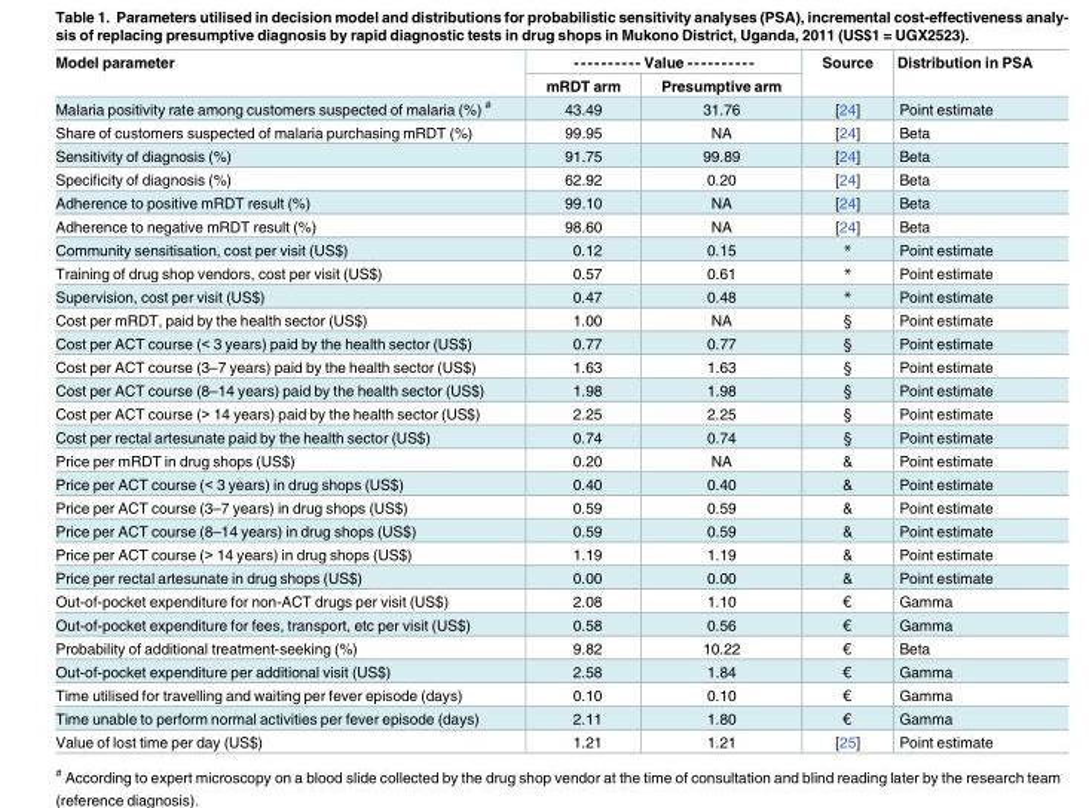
<table><thead><tr><td rowspan="2">Model parameter</td><td colspan="2">---------- Value ----------</td><td rowspan="2">Source</td><td rowspan="2">Distribution in PSA</td></tr><tr><td>mRDT arm</td><td>Presumptive arm</td></tr></thead><tbody><tr><td>Malaria positivity rate among customers suspected of malaria (%) <sup>#</sup></td><td>43.49</td><td>31.76</td><td>[24]</td><td>Point estimate</td></tr><tr><td>Share of customers suspected of malaria purchasing mRDT (%)</td><td>99.95</td><td>NA</td><td>[24]</td><td>Beta</td></tr><tr><td>Sensitivity of diagnosis (%)</td><td>91.75</td><td>99.89</td><td>[24]</td><td>Beta</td></tr><tr><td>Specificity of diagnosis (%)</td><td>62.92</td><td>0.20</td><td>[24]</td><td>Beta</td></tr><tr><td>Adherence to positive mRDT result (%)</td><td>99.10</td><td>NA</td><td>[24]</td><td>Beta</td></tr><tr><td>Adherence to negative mRDT result (%)</td><td>98.60</td><td>NA</td><td>[24]</td><td>Beta</td></tr><tr><td>Community sensitisation, cost per visit (US$)</td><td>0.12</td><td>0.15</td><td>*</td><td>Point estimate</td></tr><tr><td>Training of drug shop vendors, cost per visit (US$)</td><td>0.57</td><td>0.61</td><td>*</td><td>Point estimate</td></tr><tr><td>Supervision, cost per visit (US$)</td><td>0.47</td><td>0.48</td><td>*</td><td>Point estimate</td></tr><tr><td>Cost per mRDT, paid by the health sector (US$)</td><td>1.00</td><td>NA</td><td>§</td><td>Point estimate</td></tr><tr><td>Cost per ACT course (&lt; 3 years) paid by the health sector (US$)</td><td>0.77</td><td>0.77</td><td>§</td><td>Point estimate</td></tr><tr><td>Cost per ACT course (3–7 years) paid by the health sector (US$)</td><td>1.63</td><td>1.63</td><td>§</td><td>Point estimate</td></tr><tr><td>Cost per ACT course (8–14 years) paid by the health sector (US$)</td><td>1.98</td><td>1.98</td><td>§</td><td>Point estimate</td></tr><tr><td>Cost per ACT course (&gt; 14 years) paid by the health sector (US$)</td><td>2.25</td><td>2.25</td><td>§</td><td>Point estimate</td></tr><tr><td>Cost per rectal artesunate paid by the health sector (US$)</td><td>0.74</td><td>0.74</td><td>§</td><td>Point estimate</td></tr><tr><td>Price per mRDT in drug shops (US$)</td><td>0.20</td><td>NA</td><td>&amp;</td><td>Point estimate</td></tr><tr><td>Price per ACT course (&lt; 3 years) in drug shops (US$)</td><td>0.40</td><td>0.40</td><td>&amp;</td><td>Point estimate</td></tr><tr><td>Price per ACT course (3–7 years) in drug shops (US$)</td><td>0.59</td><td>0.59</td><td>&amp;</td><td>Point estimate</td></tr><tr><td>Price per ACT course (8–14 years) in drug shops (US$)</td><td>0.59</td><td>0.59</td><td>&amp;</td><td>Point estimate</td></tr><tr><td>Price per ACT course (&gt; 14 years) in drug shops (US$)</td><td>1.19</td><td>1.19</td><td>&amp;</td><td>Point estimate</td></tr><tr><td>Price per rectal artesunate in drug shops (US$)</td><td>0.00</td><td>0.00</td><td>&amp;</td><td>Point estimate</td></tr><tr><td>Out-of-pocket expenditure for non-ACT drugs per visit (US$)</td><td>2.08</td><td>1.10</td><td>€</td><td>Gamma</td></tr><tr><td>Out-of-pocket expenditure for fees, transport, etc per visit (US$)</td><td>0.58</td><td>0.56</td><td>€</td><td>Gamma</td></tr><tr><td>Probability of additional treatment-seeking (%)</td><td>9.82</td><td>10.22</td><td>€</td><td>Beta</td></tr><tr><td>Out-of-pocket expenditure per additional visit (US$)</td><td>2.58</td><td>1.84</td><td>€</td><td>Gamma</td></tr><tr><td>Time utilised for travelling and waiting per fever episode (days)</td><td>0.10</td><td>0.10</td><td>€</td><td>Gamma</td></tr><tr><td>Time unable to perform normal activities per fever episode (days)</td><td>2.11</td><td>1.80</td><td>€</td><td>Gamma</td></tr><tr><td>Value of lost time per day (US$)</td><td>1.21</td><td>1.21</td><td>[25]</td><td>Point estimate</td></tr></tbody></table>